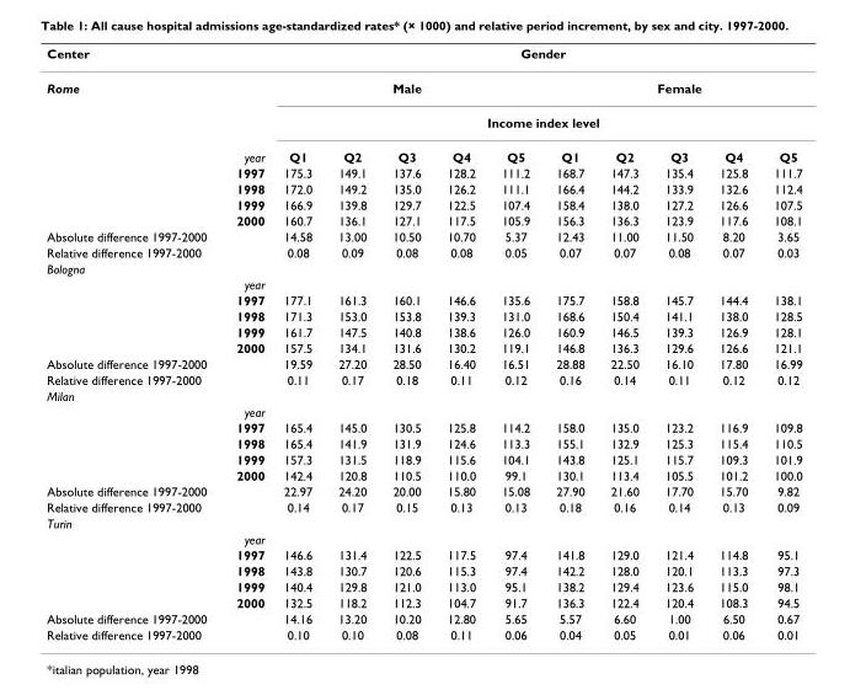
<table><thead><tr><td rowspan="4">Center Rome year</td><td colspan="10">Gender</td></tr><tr><td colspan="5">Male</td><td colspan="5">Female</td></tr><tr><td colspan="10">Income index level</td></tr><tr><td>Q1</td><td>Q2</td><td>Q3</td><td>Q4</td><td>Q5</td><td>Q1</td><td>Q2</td><td>Q3</td><td>Q4</td><td>Q5</td></tr></thead><tbody><tr><td>1997</td><td>175.3</td><td>149.1</td><td>137.6</td><td>128.2</td><td>111.2</td><td>168.7</td><td>147.3</td><td>135.4</td><td>125.8</td><td>111.7</td></tr><tr><td>1998</td><td>172.0</td><td>149.2</td><td>135.0</td><td>126.2</td><td>111.1</td><td>166.4</td><td>144.2</td><td>133.9</td><td>132.6</td><td>112.4</td></tr><tr><td>1999</td><td>166.9</td><td>139.8</td><td>129.7</td><td>122.5</td><td>107.4</td><td>158.4</td><td>138.0</td><td>127.2</td><td>126.6</td><td>107.5</td></tr><tr><td>2000</td><td>160.7</td><td>136.1</td><td>127.1</td><td>117.5</td><td>105.9</td><td>156.3</td><td>136.3</td><td>123.9</td><td>117.6</td><td>108.1</td></tr><tr><td>Absolute difference 1997-2000</td><td>14.58</td><td>13.00</td><td>10.50</td><td>10.70</td><td>5.37</td><td>12.43</td><td>11.00</td><td>11.50</td><td>8.20</td><td>3.65</td></tr><tr><td>Relative difference 1997-2000</td><td>0.08</td><td>0.09</td><td>0.08</td><td>0.08</td><td>0.05</td><td>0.07</td><td>0.07</td><td>0.08</td><td>0.07</td><td>0.03</td></tr><tr><td colspan="11">Bologna</td></tr><tr><td colspan="11">year</td></tr><tr><td>1997</td><td>177.1</td><td>161.3</td><td>160.1</td><td>146.6</td><td>135.6</td><td>175.7</td><td>158.8</td><td>145.7</td><td>144.4</td><td>138.1</td></tr><tr><td>1998</td><td>171.3</td><td>153.0</td><td>153.8</td><td>139.3</td><td>131.0</td><td>168.6</td><td>150.4</td><td>141.1</td><td>138.0</td><td>128.5</td></tr><tr><td>1999</td><td>161.7</td><td>147.5</td><td>140.8</td><td>138.6</td><td>126.0</td><td>160.9</td><td>146.5</td><td>139.3</td><td>126.9</td><td>128.1</td></tr><tr><td>2000</td><td>157.5</td><td>134.1</td><td>131.6</td><td>130.2</td><td>119.1</td><td>146.8</td><td>136.3</td><td>129.6</td><td>126.6</td><td>121.1</td></tr><tr><td>Absolute difference 1997-2000</td><td>19.59</td><td>27.20</td><td>28.50</td><td>16.40</td><td>16.51</td><td>28.88</td><td>22.50</td><td>16.10</td><td>17.80</td><td>16.99</td></tr><tr><td>Relative difference 1997-2000</td><td>0.11</td><td>0.17</td><td>0.18</td><td>0.11</td><td>0.12</td><td>0.16</td><td>0.14</td><td>0.11</td><td>0.12</td><td>0.12</td></tr><tr><td colspan="11">Milan</td></tr><tr><td colspan="11">year</td></tr><tr><td>1997</td><td>165.4</td><td>145.0</td><td>130.5</td><td>125.8</td><td>114.2</td><td>158.0</td><td>135.0</td><td>123.2</td><td>116.9</td><td>109.8</td></tr><tr><td>1998</td><td>165.4</td><td>141.9</td><td>131.9</td><td>124.6</td><td>113.3</td><td>155.1</td><td>132.9</td><td>125.3</td><td>115.4</td><td>110.5</td></tr><tr><td>1999</td><td>157.3</td><td>131.5</td><td>118.9</td><td>115.6</td><td>104.1</td><td>143.8</td><td>125.1</td><td>115.7</td><td>109.3</td><td>101.9</td></tr><tr><td>2000</td><td>142.4</td><td>120.8</td><td>110.5</td><td>110.0</td><td>99.1</td><td>130.1</td><td>113.4</td><td>105.5</td><td>101.2</td><td>100.0</td></tr><tr><td>Absolute difference 1997-2000</td><td>22.97</td><td>24.20</td><td>20.00</td><td>15.80</td><td>15.08</td><td>27.90</td><td>21.60</td><td>17.70</td><td>15.70</td><td>9.82</td></tr><tr><td>Relative difference 1997-2000</td><td>0.14</td><td>0.17</td><td>0.15</td><td>0.13</td><td>0.13</td><td>0.18</td><td>0.16</td><td>0.14</td><td>0.13</td><td>0.09</td></tr><tr><td colspan="11">Turin</td></tr><tr><td colspan="11">year</td></tr><tr><td>1997</td><td>146.6</td><td>131.4</td><td>122.5</td><td>117.5</td><td>97.4</td><td>141.8</td><td>129.0</td><td>121.4</td><td>114.8</td><td>95.1</td></tr><tr><td>1998</td><td>143.8</td><td>130.7</td><td>120.6</td><td>115.3</td><td>97.4</td><td>142.2</td><td>128.0</td><td>120.1</td><td>113.3</td><td>97.3</td></tr><tr><td>1999</td><td>140.4</td><td>129.8</td><td>121.0</td><td>113.0</td><td>95.1</td><td>138.2</td><td>129.4</td><td>123.6</td><td>115.0</td><td>98.1</td></tr><tr><td>2000</td><td>132.5</td><td>118.2</td><td>112.3</td><td>104.7</td><td>91.7</td><td>136.3</td><td>122.4</td><td>120.4</td><td>108.3</td><td>94.5</td></tr><tr><td>Absolute difference 1997-2000</td><td>14.16</td><td>13.20</td><td>10.20</td><td>12.80</td><td>5.65</td><td>5.57</td><td>6.60</td><td>1.00</td><td>6.50</td><td>0.67</td></tr><tr><td>Relative difference 1997-2000</td><td>0.10</td><td>0.10</td><td>0.08</td><td>0.11</td><td>0.06</td><td>0.04</td><td>0.05</td><td>0.01</td><td>0.06</td><td>0.01</td></tr></tbody></table>